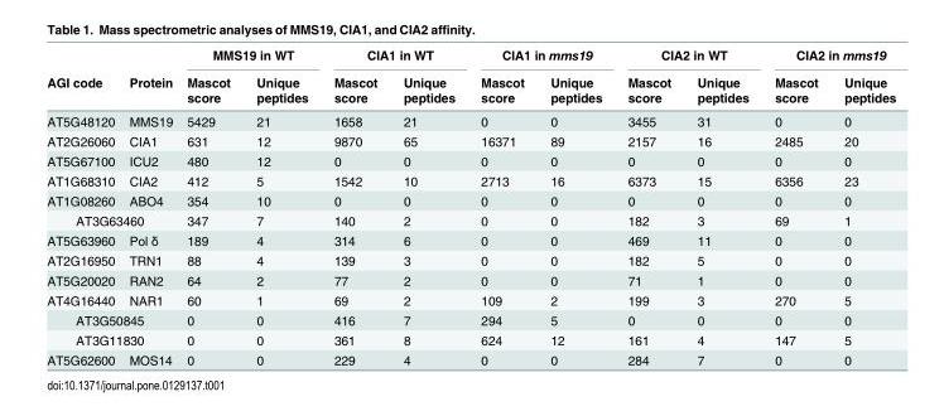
<table><thead><tr><td rowspan="2">AGI code</td><td rowspan="2">Protein</td><td colspan="2">MMS19 in WT</td><td colspan="2">CIA1 in WT</td><td colspan="2">CIA1 in mms19</td><td colspan="2">CIA2 in WT</td><td colspan="2">CIA2 in mms19</td></tr><tr><td>Mascot score</td><td>Unique peptides</td><td>Mascot score</td><td>Unique peptides</td><td>Mascot score</td><td>Unique peptides</td><td>Mascot score</td><td>Unique peptides</td><td>Mascot score</td><td>Unique peptides</td></tr></thead><tbody><tr><td>AT5G48120</td><td>MMS19</td><td>5429</td><td>21</td><td>1658</td><td>21</td><td>0</td><td>0</td><td>3455</td><td>31</td><td>0</td><td>0</td></tr><tr><td>AT2G26060</td><td>CIA1</td><td>631</td><td>12</td><td>9870</td><td>65</td><td>16371</td><td>89</td><td>2157</td><td>16</td><td>2485</td><td>20</td></tr><tr><td>AT5G67100</td><td>ICU2</td><td>480</td><td>12</td><td>0</td><td>0</td><td>0</td><td>0</td><td>0</td><td>0</td><td>0</td><td>0</td></tr><tr><td>AT1G68310</td><td>CIA2</td><td>412</td><td>5</td><td>1542</td><td>10</td><td>2713</td><td>16</td><td>6373</td><td>15</td><td>6356</td><td>23</td></tr><tr><td>AT1G08260</td><td>ABO4</td><td>354</td><td>10</td><td>0</td><td>0</td><td>0</td><td>0</td><td>0</td><td>0</td><td>0</td><td>0</td></tr><tr><td colspan="2">AT3G63460</td><td>347</td><td>7</td><td>140</td><td>2</td><td>0</td><td>0</td><td>182</td><td>3</td><td>69</td><td>1</td></tr><tr><td>AT5G63960</td><td>Pol δ</td><td>189</td><td>4</td><td>314</td><td>6</td><td>0</td><td>0</td><td>469</td><td>11</td><td>0</td><td>0</td></tr><tr><td>AT2G16950</td><td>TRN1</td><td>88</td><td>4</td><td>139</td><td>3</td><td>0</td><td>0</td><td>182</td><td>5</td><td>0</td><td>0</td></tr><tr><td>AT5G20020</td><td>RAN2</td><td>64</td><td>2</td><td>77</td><td>2</td><td>0</td><td>0</td><td>71</td><td>1</td><td>0</td><td>0</td></tr><tr><td>AT4G16440</td><td>NAR1</td><td>60</td><td>1</td><td>69</td><td>2</td><td>109</td><td>2</td><td>199</td><td>3</td><td>270</td><td>5</td></tr><tr><td colspan="2">AT3G50845</td><td>0</td><td>0</td><td>416</td><td>7</td><td>294</td><td>5</td><td>0</td><td>0</td><td>0</td><td>0</td></tr><tr><td colspan="2">AT3G11830</td><td>0</td><td>0</td><td>361</td><td>8</td><td>624</td><td>12</td><td>161</td><td>4</td><td>147</td><td>5</td></tr><tr><td>AT5G62600</td><td>MOS14</td><td>0</td><td>0</td><td>229</td><td>4</td><td>0</td><td>0</td><td>284</td><td>7</td><td>0</td><td>0</td></tr></tbody></table>